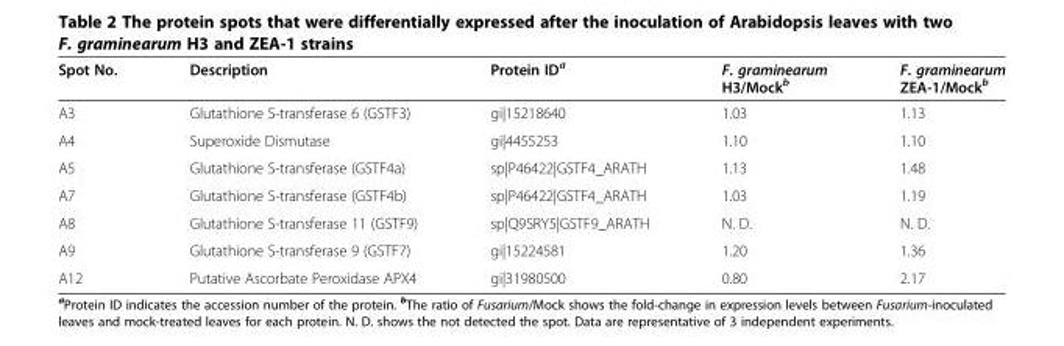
<table><thead><tr><td>Spot No.</td><td>Description</td><td>Protein ID<sup>a</sup></td><td>F. graminearum H3/Mock<sup>b</sup></td><td>F. graminearum ZEA-1/Mock<sup>b</sup></td></tr></thead><tbody><tr><td>A3</td><td>Glutathione S-transferase 6 (GSTF3)</td><td>gi|15218640</td><td>1.03</td><td>1.13</td></tr><tr><td>A4</td><td>Superoxide Dismutase</td><td>gi|4455253</td><td>1.10</td><td>1.10</td></tr><tr><td>A5</td><td>Glutathione S-transferase (GSTF4a)</td><td>sp|P46422|GSTF4_ARATH</td><td>1.13</td><td>1.48</td></tr><tr><td>A7</td><td>Glutathione S-transferase (GSTF4b)</td><td>sp|P46422|GSTF4_ARATH</td><td>1.03</td><td>1.19</td></tr><tr><td>A8</td><td>Glutathione S-transferase 11 (GSTF9)</td><td>sp|Q9SRY5|GSTF9_ARATH</td><td>N. D.</td><td>N. D.</td></tr><tr><td>A9</td><td>Glutathione S-transferase 9 (GSTF7)</td><td>gi|15224581</td><td>1.20</td><td>1.36</td></tr><tr><td>A12</td><td>Putative Ascorbate Peroxidase APX4</td><td>gi|31980500</td><td>0.80</td><td>2.17</td></tr></tbody></table>